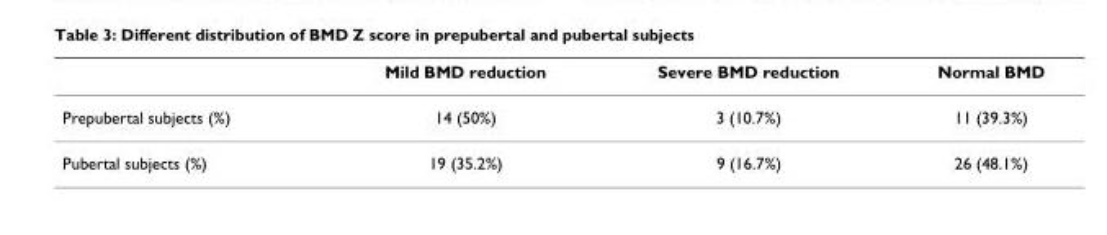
<table><thead><tr><td></td><td>Mild BMD reduction</td><td>Severe BMD reduction</td><td>Normal BMD</td></tr></thead><tbody><tr><td>Prepubertal subjects (%)</td><td>14 (50%)</td><td>3 (10.7%)</td><td>11 (39.3%)</td></tr><tr><td>Pubertal subjects (%)</td><td>19 (35.2%)</td><td>9 (16.7%)</td><td>26 (48.1%)</td></tr></tbody></table>